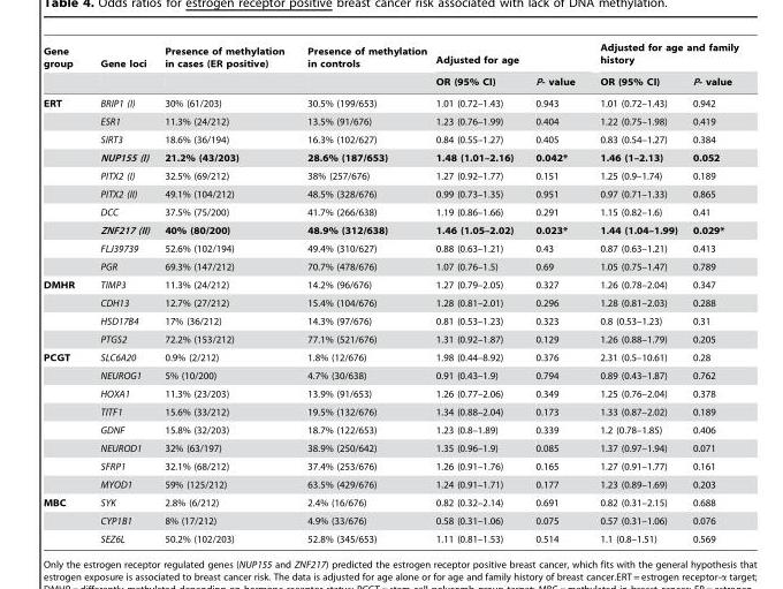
<table><thead><tr><td rowspan="2">Gene group</td><td rowspan="2">Gene loci</td><td rowspan="2">Presence of methylation in cases (ER positive)</td><td rowspan="2">Presence of methylation in controls</td><td colspan="2">Adjusted for age</td><td colspan="2">Adjusted for age and family history</td></tr><tr><td>OR (95% CI)</td><td>P- value</td><td>OR (95% CI)</td><td>P- value</td></tr></thead><tbody><tr><td rowspan="10">ERT</td><td>BRIP1 (I)</td><td>30% (61/203)</td><td>30.5% (199/653)</td><td>1.01 (0.72–1.43)</td><td>0.943</td><td>1.01 (0.72–1.43)</td><td>0.942</td></tr><tr><td>ESR1</td><td>11.3% (24/212)</td><td>13.5% (91/676)</td><td>1.23 (0.76–1.99)</td><td>0.404</td><td>1.22 (0.75–1.98)</td><td>0.419</td></tr><tr><td>SIRT3</td><td>18.6% (36/194)</td><td>16.3% (102/627)</td><td>0.84 (0.55–1.27)</td><td>0.405</td><td>0.83 (0.54–1.27)</td><td>0.384</td></tr><tr><td>NUP155 (I)</td><td>21.2% (43/203)</td><td>28.6% (187/653)</td><td>1.48 (1.01–2.16)</td><td>0.042*</td><td>1.46 (1–2.13)</td><td>0.052</td></tr><tr><td>PITX2 (I)</td><td>32.5% (69/212)</td><td>38% (257/676)</td><td>1.27 (0.92–1.77)</td><td>0.151</td><td>1.25 (0.9–1.74)</td><td>0.189</td></tr><tr><td>PITX2 (II)</td><td>49.1% (104/212)</td><td>48.5% (328/676)</td><td>0.99 (0.73–1.35)</td><td>0.951</td><td>0.97 (0.71–1.33)</td><td>0.865</td></tr><tr><td>DCC</td><td>37.5% (75/200)</td><td>41.7% (266/638)</td><td>1.19 (0.86–1.66)</td><td>0.291</td><td>1.15 (0.82–1.6)</td><td>0.41</td></tr><tr><td>ZNF217 (II)</td><td>40% (80/200)</td><td>48.9% (312/638)</td><td>1.46 (1.05–2.02)</td><td>0.023*</td><td>1.44 (1.04–1.99)</td><td>0.029*</td></tr><tr><td>FLJ39739</td><td>52.6% (102/194)</td><td>49.4% (310/627)</td><td>0.88 (0.63–1.21)</td><td>0.43</td><td>0.87 (0.63–1.21)</td><td>0.413</td></tr><tr><td>PGR</td><td>69.3% (147/212)</td><td>70.7% (478/676)</td><td>1.07 (0.76–1.5)</td><td>0.69</td><td>1.05 (0.75–1.47)</td><td>0.789</td></tr><tr><td rowspan="4">DMHR</td><td>TIMP3</td><td>11.3% (24/212)</td><td>14.2% (96/676)</td><td>1.27 (0.79–2.05)</td><td>0.327</td><td>1.26 (0.78–2.04)</td><td>0.347</td></tr><tr><td>CDH13</td><td>12.7% (27/212)</td><td>15.4% (104/676)</td><td>1.28 (0.81–2.01)</td><td>0.296</td><td>1.28 (0.81–2.03)</td><td>0.288</td></tr><tr><td>HSD17B4</td><td>17% (36/212)</td><td>14.3% (97/676)</td><td>0.81 (0.53–1.23)</td><td>0.323</td><td>0.8 (0.53–1.23)</td><td>0.31</td></tr><tr><td>PTGS2</td><td>72.2% (153/212)</td><td>77.1% (521/676)</td><td>1.31 (0.92–1.87)</td><td>0.129</td><td>1.26 (0.88–1.79)</td><td>0.205</td></tr><tr><td rowspan="8">PCGT</td><td>SLC6A20</td><td>0.9% (2/212)</td><td>1.8% (12/676)</td><td>1.98 (0.44–8.92)</td><td>0.376</td><td>2.31 (0.5–10.61)</td><td>0.28</td></tr><tr><td>NEUROG1</td><td>5% (10/200)</td><td>4.7% (30/638)</td><td>0.91 (0.43–1.9)</td><td>0.794</td><td>0.89 (0.43–1.87)</td><td>0.762</td></tr><tr><td>HOXA1</td><td>11.3% (23/203)</td><td>13.9% (91/653)</td><td>1.26 (0.77–2.06)</td><td>0.349</td><td>1.25 (0.76–2.04)</td><td>0.378</td></tr><tr><td>TITF1</td><td>15.6% (33/212)</td><td>19.5% (132/676)</td><td>1.34 (0.88–2.04)</td><td>0.173</td><td>1.33 (0.87–2.02)</td><td>0.189</td></tr><tr><td>GDNF</td><td>15.8% (32/203)</td><td>18.7% (122/653)</td><td>1.23 (0.8–1.89)</td><td>0.339</td><td>1.2 (0.78–1.85)</td><td>0.406</td></tr><tr><td>NEUROD1</td><td>32% (63/197)</td><td>38.9% (250/642)</td><td>1.35 (0.96–1.9)</td><td>0.085</td><td>1.37 (0.97–1.94)</td><td>0.071</td></tr><tr><td>SFRP1</td><td>32.1% (68/212)</td><td>37.4% (253/676)</td><td>1.26 (0.91–1.76)</td><td>0.165</td><td>1.27 (0.91–1.77)</td><td>0.161</td></tr><tr><td>MYOD1</td><td>59% (125/212)</td><td>63.5% (429/676)</td><td>1.24 (0.91–1.71)</td><td>0.177</td><td>1.23 (0.89–1.69)</td><td>0.203</td></tr><tr><td rowspan="3">MBC</td><td>SYK</td><td>2.8% (6/212)</td><td>2.4% (16/676)</td><td>0.82 (0.32–2.14)</td><td>0.691</td><td>0.82 (0.31–2.15)</td><td>0.688</td></tr><tr><td>CYP1B1</td><td>8% (17/212)</td><td>4.9% (33/676)</td><td>0.58 (0.31–1.06)</td><td>0.075</td><td>0.57 (0.31–1.06)</td><td>0.076</td></tr><tr><td>SEZ6L</td><td>50.2% (102/203)</td><td>52.8% (345/653)</td><td>1.11 (0.81–1.53)</td><td>0.514</td><td>1.1 (0.8–1.51)</td><td>0.569</td></tr></tbody></table>